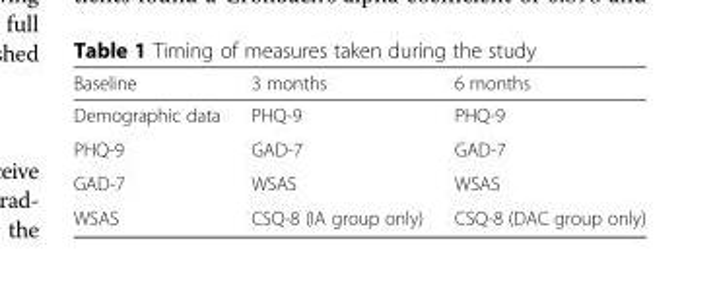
<table><thead><tr><td>Baseline</td><td>3 months</td><td>6 months</td></tr></thead><tbody><tr><td>Demographic data</td><td>PHQ-9</td><td>PHQ-9</td></tr><tr><td>PHQ-9</td><td>GAD-7</td><td>GAD-7</td></tr><tr><td>GAD-7</td><td>WSAS</td><td>WSAS</td></tr><tr><td>WSAS</td><td>CSQ-8 (IA group only)</td><td>CSQ-8 (DAC group only)</td></tr></tbody></table>